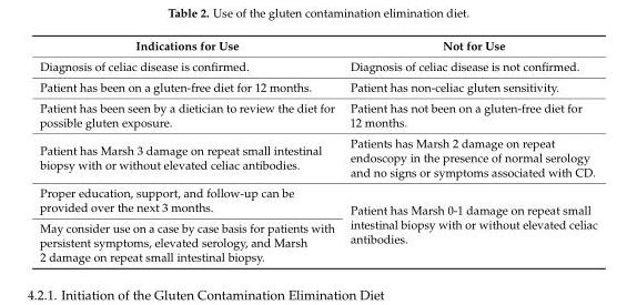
<table><thead><tr><td>Indications for Use</td><td>Not for Use</td></tr></thead><tbody><tr><td>Diagnosis of celiac disease is confirmed.</td><td>Diagnosis of celiac disease is not confirmed.</td></tr><tr><td>Patient has been on a gluten-free diet for 12 months.</td><td>Patient has non-celiac gluten sensitivity.</td></tr><tr><td>Patient has been seen by a dietician to review the diet for possible gluten exposure.</td><td>Patient has not been on a gluten-free diet for 12 months.</td></tr><tr><td>Patient has Marsh 3 damage on repeat small intestinal biopsy with or without elevated celiac antibodies.</td><td>Patients has Marsh 2 damage on repeat endoscopy in the presence of normal serology and no signs or symptoms associated with CD.</td></tr><tr><td>Proper education, support, and follow-up can be provided over the next 3 months.</td><td rowspan="2">Patient has Marsh 0-1 damage on repeat small intestinal biopsy with or without elevated celiac antibodies.</td></tr><tr><td>May consider use on a case by case basis for patients with persistent symptoms, elevated serology, and Marsh 2 damage on repeat small intestinal biopsy.</td></tr></tbody></table>